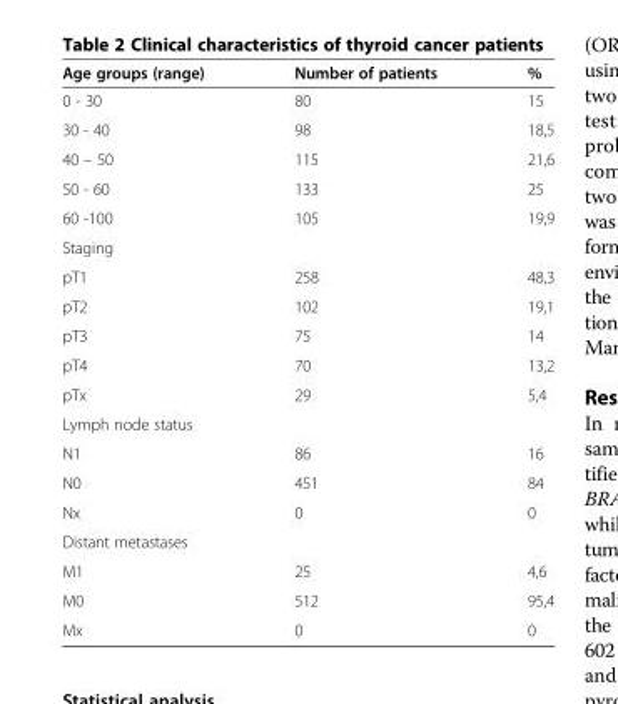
<table><thead><tr><td>Age groups (range)</td><td>Number of patients</td><td>%</td></tr></thead><tbody><tr><td>0 - 30</td><td>80</td><td>15</td></tr><tr><td>30 - 40</td><td>98</td><td>18,5</td></tr><tr><td>40 – 50</td><td>115</td><td>21,6</td></tr><tr><td>50 - 60</td><td>133</td><td>25</td></tr><tr><td>60 -100</td><td>105</td><td>19,9</td></tr><tr><td colspan="3">Staging</td></tr><tr><td>pT1</td><td>258</td><td>48,3</td></tr><tr><td>pT2</td><td>102</td><td>19,1</td></tr><tr><td>pT3</td><td>75</td><td>14</td></tr><tr><td>pT4</td><td>70</td><td>13,2</td></tr><tr><td>pTx</td><td>29</td><td>5,4</td></tr><tr><td colspan="3">Lymph node status</td></tr><tr><td>N1</td><td>86</td><td>16</td></tr><tr><td>N0</td><td>451</td><td>84</td></tr><tr><td>Nx</td><td>0</td><td>0</td></tr><tr><td colspan="3">Distant metastases</td></tr><tr><td>M1</td><td>25</td><td>4,6</td></tr><tr><td>M0</td><td>512</td><td>95,4</td></tr><tr><td>Mx</td><td>0</td><td>0</td></tr></tbody></table>